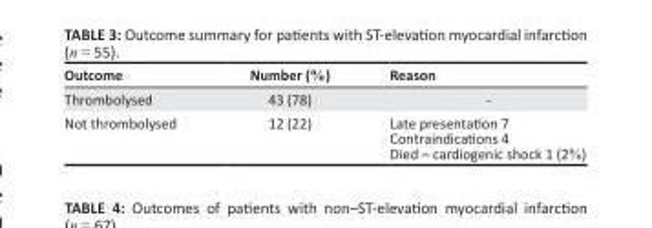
<table><thead><tr><td>Outcome</td><td>Number (%)</td><td>Reason</td></tr></thead><tbody><tr><td>Thrombolysed</td><td>43 (78)</td><td>-</td></tr><tr><td>Not thrombolysed</td><td>12 (22)</td><td>Late presentation 7 Contraindications 4 Died – cardiogenic shock 1 (2%)</td></tr></tbody></table>